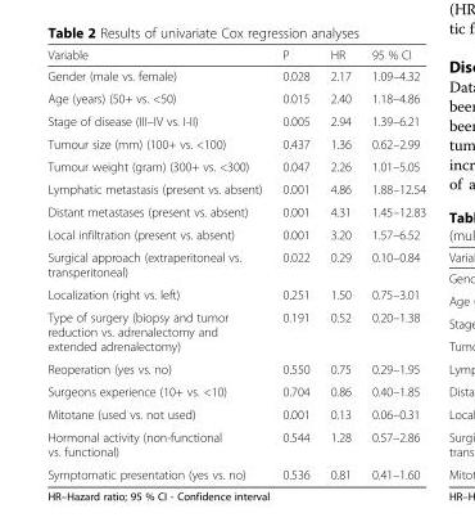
<table><thead><tr><td>Variable</td><td>P</td><td>HR</td><td>95 % CI</td></tr></thead><tbody><tr><td>Gender (male vs. female)</td><td>0.028</td><td>2.17</td><td>1.09–4.32</td></tr><tr><td>Age (years) (50+ vs. &lt;50)</td><td>0.015</td><td>2.40</td><td>1.18–4.86</td></tr><tr><td>Stage of disease (III–IV vs. I-II)</td><td>0.005</td><td>2.94</td><td>1.39–6.21</td></tr><tr><td>Tumour size (mm) (100+ vs. &lt;100)</td><td>0.437</td><td>1.36</td><td>0.62–2.99</td></tr><tr><td>Tumour weight (gram) (300+ vs. &lt;300)</td><td>0.047</td><td>2.26</td><td>1.01–5.05</td></tr><tr><td>Lymphatic metastasis (present vs. absent)</td><td>0.001</td><td>4.86</td><td>1.88–12.54</td></tr><tr><td>Distant metastases (present vs. absent)</td><td>0.001</td><td>4.31</td><td>1.45–12.83</td></tr><tr><td>Local infiltration (present vs. absent)</td><td>0.001</td><td>3.20</td><td>1.57–6.52</td></tr><tr><td>Surgical approach (extraperitoneal vs. transperitoneal)</td><td>0.022</td><td>0.29</td><td>0.10–0.84</td></tr><tr><td>Localization (right vs. left)</td><td>0.251</td><td>1.50</td><td>0.75–3.01</td></tr><tr><td>Type of surgery (biopsy and tumor reduction vs. adrenalectomy and extended adrenalectomy)</td><td>0.191</td><td>0.52</td><td>0.20–1.38</td></tr><tr><td>Reoperation (yes vs. no)</td><td>0.550</td><td>0.75</td><td>0.29–1.95</td></tr><tr><td>Surgeons experience (10+ vs. &lt;10)</td><td>0.704</td><td>0.86</td><td>0.40–1.85</td></tr><tr><td>Mitotane (used vs. not used)</td><td>0.001</td><td>0.13</td><td>0.06–0.31</td></tr><tr><td>Hormonal activity (non-functional vs. functional)</td><td>0.544</td><td>1.28</td><td>0.57–2.86</td></tr><tr><td>Symptomatic presentation (yes vs. no)</td><td>0.536</td><td>0.81</td><td>0.41–1.60</td></tr></tbody></table>